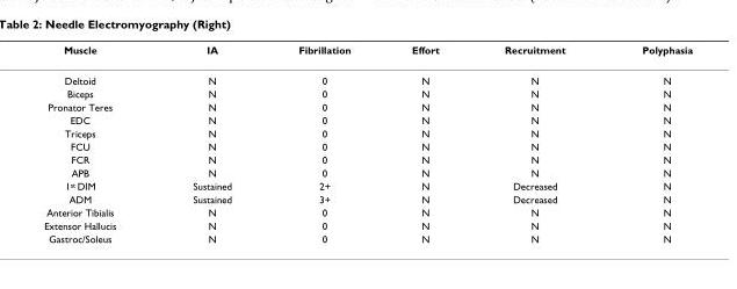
<table><thead><tr><td>Muscle</td><td>IA</td><td>Fibrillation</td><td>Effort</td><td>Recruitment</td><td>Polyphasia</td></tr></thead><tbody><tr><td>Deltoid</td><td>N</td><td>0</td><td>N</td><td>N</td><td>N</td></tr><tr><td>Biceps</td><td>N</td><td>0</td><td>N</td><td>N</td><td>N</td></tr><tr><td>Pronator Teres</td><td>N</td><td>0</td><td>N</td><td>N</td><td>N</td></tr><tr><td>EDC</td><td>N</td><td>0</td><td>N</td><td>N</td><td>N</td></tr><tr><td>Triceps</td><td>N</td><td>0</td><td>N</td><td>N</td><td>N</td></tr><tr><td>FCU</td><td>N</td><td>0</td><td>N</td><td>N</td><td>N</td></tr><tr><td>FCR</td><td>N</td><td>0</td><td>N</td><td>N</td><td>N</td></tr><tr><td>APB</td><td>N</td><td>0</td><td>N</td><td>N</td><td>N</td></tr><tr><td>1<sup>st</sup> DIM</td><td>Sustained</td><td>2+</td><td>N</td><td>Decreased</td><td>N</td></tr><tr><td>ADM</td><td>Sustained</td><td>3+</td><td>N</td><td>Decreased</td><td>N</td></tr><tr><td>Anterior Tibialis</td><td>N</td><td>0</td><td>N</td><td>N</td><td>N</td></tr><tr><td>Extensor Hallucis</td><td>N</td><td>0</td><td>N</td><td>N</td><td>N</td></tr><tr><td>Gastroc/Soleus</td><td>N</td><td>0</td><td>N</td><td>N</td><td>N</td></tr></tbody></table>